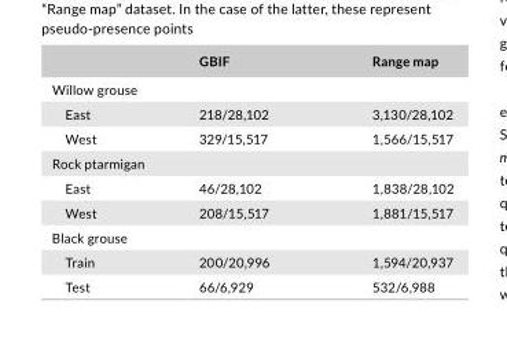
<table><thead><tr><td></td><td>GBIF</td><td>Range map</td></tr></thead><tbody><tr><td colspan="3">Willow grouse</td></tr><tr><td>East</td><td>218/28,102</td><td>3,130/28,102</td></tr><tr><td>West</td><td>329/15,517</td><td>1,566/15,517</td></tr><tr><td colspan="3">Rock ptarmigan</td></tr><tr><td>East</td><td>46/28,102</td><td>1,838/28,102</td></tr><tr><td>West</td><td>208/15,517</td><td>1,881/15,517</td></tr><tr><td colspan="3">Black grouse</td></tr><tr><td>Train</td><td>200/20,996</td><td>1,594/20,937</td></tr><tr><td>Test</td><td>66/6,929</td><td>532/6,988</td></tr></tbody></table>